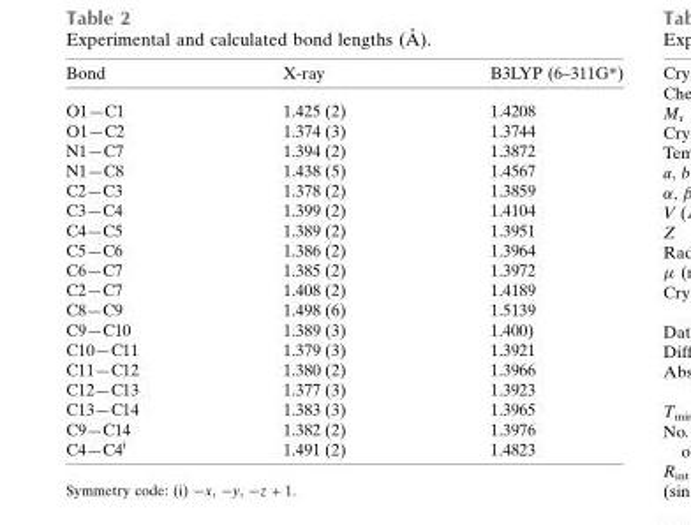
<table><thead><tr><td>Bond</td><td>X-ray</td><td>B3LYP (6–311G*)</td></tr></thead><tbody><tr><td>O1—C1</td><td>1.425 (2)</td><td>1.4208</td></tr><tr><td>O1—C2</td><td>1.374 (3)</td><td>1.3744</td></tr><tr><td>N1—C7</td><td>1.394 (2)</td><td>1.3872</td></tr><tr><td>N1—C8</td><td>1.438 (5)</td><td>1.4567</td></tr><tr><td>C2—C3</td><td>1.378 (2)</td><td>1.3859</td></tr><tr><td>C3—C4</td><td>1.399 (2)</td><td>1.4104</td></tr><tr><td>C4—C5</td><td>1.389 (2)</td><td>1.3951</td></tr><tr><td>C5—C6</td><td>1.386 (2)</td><td>1.3964</td></tr><tr><td>C6—C7</td><td>1.385 (2)</td><td>1.3972</td></tr><tr><td>C2—C7</td><td>1.408 (2)</td><td>1.4189</td></tr><tr><td>C8—C9</td><td>1.498 (6)</td><td>1.5139</td></tr><tr><td>C9—C10</td><td>1.389 (3)</td><td>1.400)</td></tr><tr><td>C10—C11</td><td>1.379 (3)</td><td>1.3921</td></tr><tr><td>C11—C12</td><td>1.380 (2)</td><td>1.3966</td></tr><tr><td>C12—C13</td><td>1.377 (3)</td><td>1.3923</td></tr><tr><td>C13—C14</td><td>1.383 (3)</td><td>1.3965</td></tr><tr><td>C9—C14</td><td>1.382 (2)</td><td>1.3976</td></tr><tr><td>C4—C4<sup>i</sup></td><td>1.491 (2)</td><td>1.4823</td></tr></tbody></table>